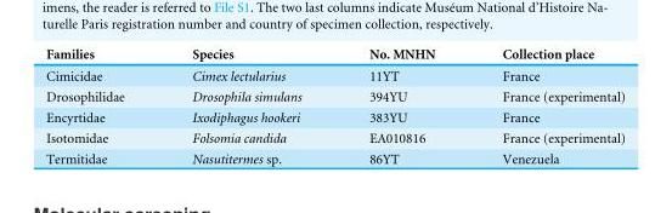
<table><thead><tr><td>Families</td><td>Species</td><td>No. MNHN</td><td>Collection place</td></tr></thead><tbody><tr><td>Cimicidae</td><td>Cimex lectularius</td><td>11YT</td><td>France</td></tr><tr><td>Drosophilidae</td><td>Drosophila simulans</td><td>394YU</td><td>France (experimental)</td></tr><tr><td>Encyrtidae</td><td>Ixodiphagus hookeri</td><td>383YU</td><td>France</td></tr><tr><td>Isotomidae</td><td>Folsomia candida</td><td>EA010816</td><td>France (experimental)</td></tr><tr><td>Termitidae</td><td>Nasutitermes sp.</td><td>86YT</td><td>Venezuela</td></tr></tbody></table>